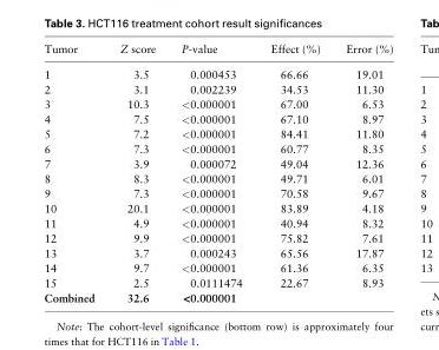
<table><thead><tr><td>Tumor</td><td>Z score</td><td>P-value</td><td>Effect (%)</td><td>Error (%)</td></tr></thead><tbody><tr><td>1</td><td>3.5</td><td>0.000453</td><td>66.66</td><td>19.01</td></tr><tr><td>2</td><td>3.1</td><td>0.002239</td><td>34.53</td><td>11.30</td></tr><tr><td>3</td><td>10.3</td><td>&lt;0.000001</td><td>67.00</td><td>6.53</td></tr><tr><td>4</td><td>7.5</td><td>&lt;0.000001</td><td>67.10</td><td>8.97</td></tr><tr><td>5</td><td>7.2</td><td>&lt;0.000001</td><td>84.41</td><td>11.80</td></tr><tr><td>6</td><td>7.3</td><td>&lt;0.000001</td><td>60.77</td><td>8.35</td></tr><tr><td>7</td><td>3.9</td><td>0.000072</td><td>49.04</td><td>12.36</td></tr><tr><td>8</td><td>8.3</td><td>&lt;0.000001</td><td>49.71</td><td>6.01</td></tr><tr><td>9</td><td>7.3</td><td>&lt;0.000001</td><td>70.58</td><td>9.67</td></tr><tr><td>10</td><td>20.1</td><td>&lt;0.000001</td><td>83.89</td><td>4.18</td></tr><tr><td>11</td><td>4.9</td><td>&lt;0.000001</td><td>40.94</td><td>8.32</td></tr><tr><td>12</td><td>9.9</td><td>&lt;0.000001</td><td>75.82</td><td>7.61</td></tr><tr><td>13</td><td>3.7</td><td>0.000243</td><td>65.56</td><td>17.87</td></tr><tr><td>14</td><td>9.7</td><td>&lt;0.000001</td><td>61.36</td><td>6.35</td></tr><tr><td>15</td><td>2.5</td><td>0.0111474</td><td>22.67</td><td>8.93</td></tr><tr><td>Combined</td><td>32.6</td><td>&lt;0.000001</td><td></td><td></td></tr></tbody></table>